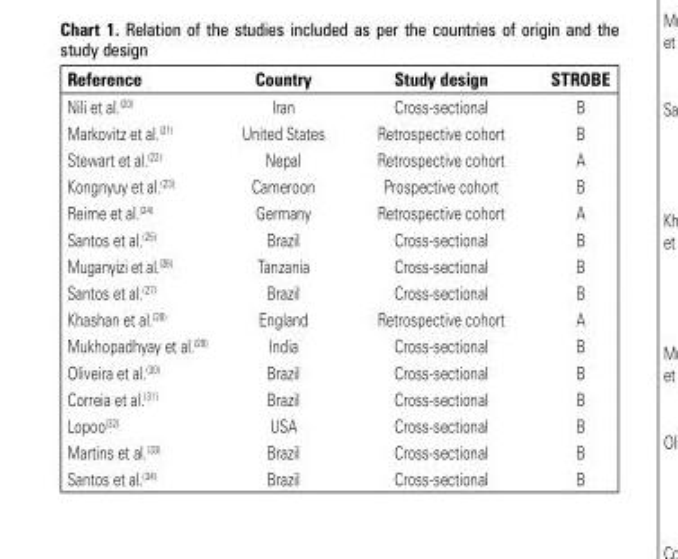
<table><thead><tr><td>Reference</td><td>Country</td><td>Study design</td><td>STROBE</td></tr></thead><tbody><tr><td>Nili et al.<sup>(20)</sup></td><td>Iran</td><td>Cross-sectional</td><td>B</td></tr><tr><td>Markovitz et al.<sup>(21)</sup></td><td>United States</td><td>Retrospective cohort</td><td>B</td></tr><tr><td>Stewart et al.<sup>(22)</sup></td><td>Nepal</td><td>Retrospective cohort</td><td>A</td></tr><tr><td>Kongnyuy et al.<sup>(23)</sup></td><td>Cameroon</td><td>Prospective cohort</td><td>B</td></tr><tr><td>Reime et al.<sup>(24)</sup></td><td>Germany</td><td>Retrospective cohort</td><td>A</td></tr><tr><td>Santos et al.<sup>(25)</sup></td><td>Brazil</td><td>Cross-sectional</td><td>B</td></tr><tr><td>Muganyizi et al.<sup>(26)</sup></td><td>Tanzania</td><td>Cross-sectional</td><td>B</td></tr><tr><td>Santos et al.<sup>(27)</sup></td><td>Brazil</td><td>Cross-sectional</td><td>B</td></tr><tr><td>Khashan et al.<sup>(28)</sup></td><td>England</td><td>Retrospective cohort</td><td>A</td></tr><tr><td>Mukhopadhyay et al.<sup>(29)</sup></td><td>India</td><td>Cross-sectional</td><td>B</td></tr><tr><td>Oliveira et al.<sup>(30)</sup></td><td>Brazil</td><td>Cross-sectional</td><td>B</td></tr><tr><td>Correia et al.<sup>(31)</sup></td><td>Brazil</td><td>Cross-sectional</td><td>B</td></tr><tr><td>Lopoo<sup>(32)</sup></td><td>USA</td><td>Cross-sectional</td><td>B</td></tr><tr><td>Martins et al.<sup>(33)</sup></td><td>Brazil</td><td>Cross-sectional</td><td>B</td></tr><tr><td>Santos et al.<sup>(34)</sup></td><td>Brazil</td><td>Cross-sectional</td><td>B</td></tr></tbody></table>